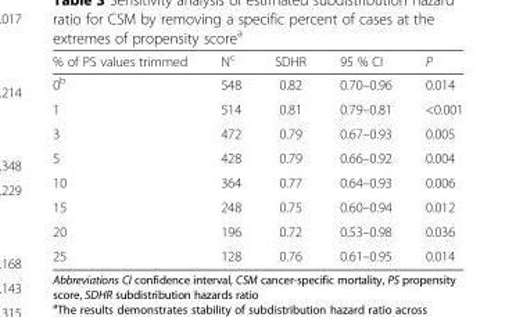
<table><thead><tr><td>% of PS values trimmed</td><td>N<sup>c</sup></td><td>SDHR</td><td>95 % CI</td><td>P</td></tr></thead><tbody><tr><td>0<sup>b</sup></td><td>548</td><td>0.82</td><td>0.70–0.96</td><td>0.014</td></tr><tr><td>1</td><td>514</td><td>0.81</td><td>0.79–0.81</td><td>&lt;0.001</td></tr><tr><td>3</td><td>472</td><td>0.79</td><td>0.67–0.93</td><td>0.005</td></tr><tr><td>5</td><td>428</td><td>0.79</td><td>0.66–0.92</td><td>0.004</td></tr><tr><td>10</td><td>364</td><td>0.77</td><td>0.64–0.93</td><td>0.006</td></tr><tr><td>15</td><td>248</td><td>0.75</td><td>0.60–0.94</td><td>0.012</td></tr><tr><td>20</td><td>196</td><td>0.72</td><td>0.53–0.98</td><td>0.036</td></tr><tr><td>25</td><td>128</td><td>0.76</td><td>0.61–0.95</td><td>0.014</td></tr></tbody></table>